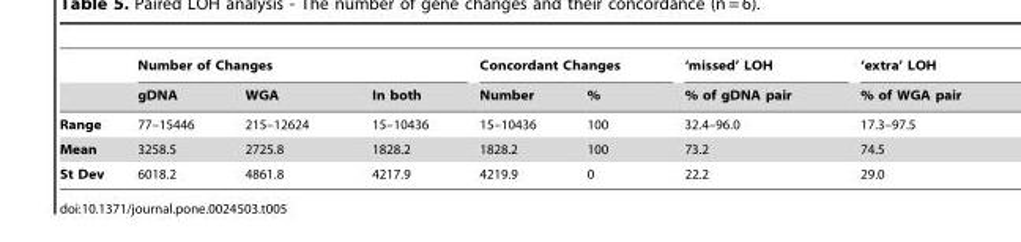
<table><thead><tr><td rowspan="2"></td><td colspan="3">Number of Changes</td><td colspan="2">Concordant Changes</td><td rowspan="2">‘missed’ LOH % of gDNA pair</td><td rowspan="2">‘extra’ LOH % of WGA pair</td></tr><tr><td>gDNA</td><td>WGA</td><td>In both</td><td>Number</td><td>%</td></tr></thead><tbody><tr><td>Range</td><td>77–15446</td><td>215–12624</td><td>15–10436</td><td>15–10436</td><td>100</td><td>32.4–96.0</td><td>17.3–97.5</td></tr><tr><td>Mean</td><td>3258.5</td><td>2725.8</td><td>1828.2</td><td>1828.2</td><td>100</td><td>73.2</td><td>74.5</td></tr><tr><td>St Dev</td><td>6018.2</td><td>4861.8</td><td>4217.9</td><td>4219.9</td><td>0</td><td>22.2</td><td>29.0</td></tr></tbody></table>